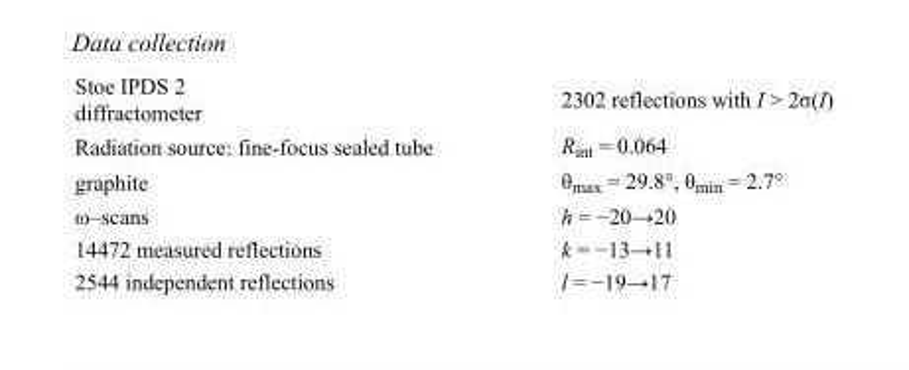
<table><tbody><tr><td>Stoe IPDS 2 diffractometer</td><td>2302 reflections with I &gt; 2σ(I)</td></tr><tr><td>Radiation source: fine-focus sealed tube</td><td>R<sub>int</sub> = 0.064</td></tr><tr><td>graphite</td><td>θ<sub>max</sub> = 29.8°, θ<sub>min</sub> = 2.7°</td></tr><tr><td>ω–scans</td><td>h = −20→20</td></tr><tr><td>14472 measured reflections</td><td>k = −13→11</td></tr><tr><td>2544 independent reflections</td><td>l = −19→17</td></tr></tbody></table>